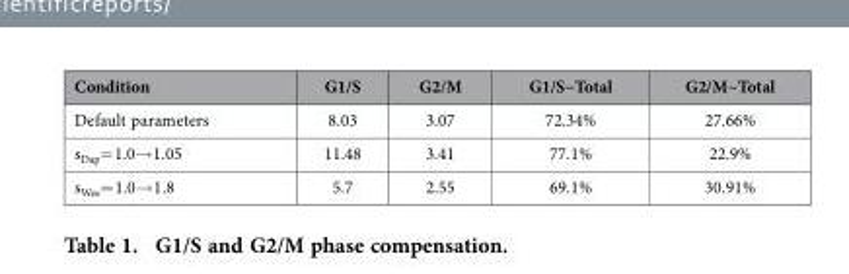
<table><thead><tr><td>Condition</td><td>G1/S</td><td>G2/M</td><td>G1/S~Total</td><td>G2/M~Total</td></tr></thead><tbody><tr><td>Default parameters</td><td>8.03</td><td>3.07</td><td>72.34%</td><td>27.66%</td></tr><tr><td>s<sub>Dap</sub>= 1.0→ 1.05</td><td>11.48</td><td>3.41</td><td>77.1%</td><td>22.9%</td></tr><tr><td>s<sub>Wee</sub>= 1.0→ 1.8</td><td>5.7</td><td>2.55</td><td>69.1%</td><td>30.91%</td></tr></tbody></table>